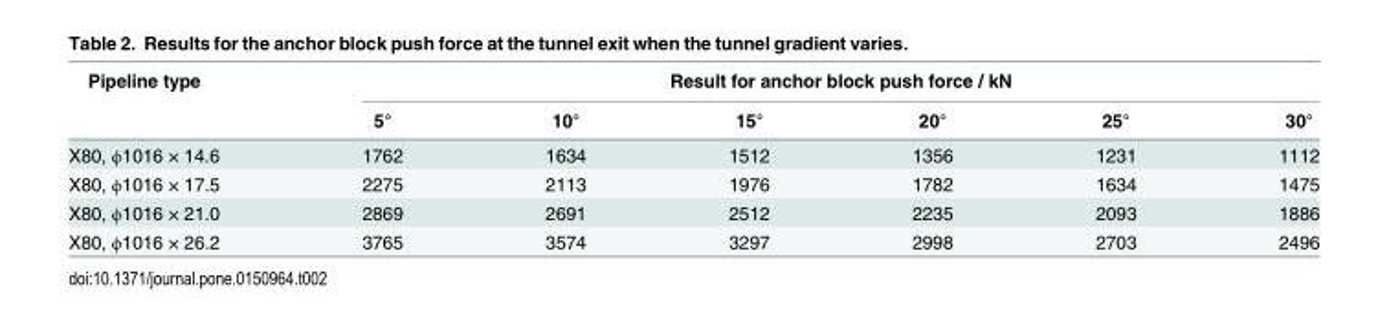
<table><thead><tr><td rowspan="2">Pipeline type</td><td colspan="6">Result for anchor block push force / kN</td></tr><tr><td>5°</td><td>10°</td><td>15°</td><td>20°</td><td>25°</td><td>30°</td></tr></thead><tbody><tr><td>X80, ϕ1016 × 14.6</td><td>1762</td><td>1634</td><td>1512</td><td>1356</td><td>1231</td><td>1112</td></tr><tr><td>X80, ϕ1016 × 17.5</td><td>2275</td><td>2113</td><td>1976</td><td>1782</td><td>1634</td><td>1475</td></tr><tr><td>X80, ϕ1016 × 21.0</td><td>2869</td><td>2691</td><td>2512</td><td>2235</td><td>2093</td><td>1886</td></tr><tr><td>X80, ϕ1016 × 26.2</td><td>3765</td><td>3574</td><td>3297</td><td>2998</td><td>2703</td><td>2496</td></tr></tbody></table>